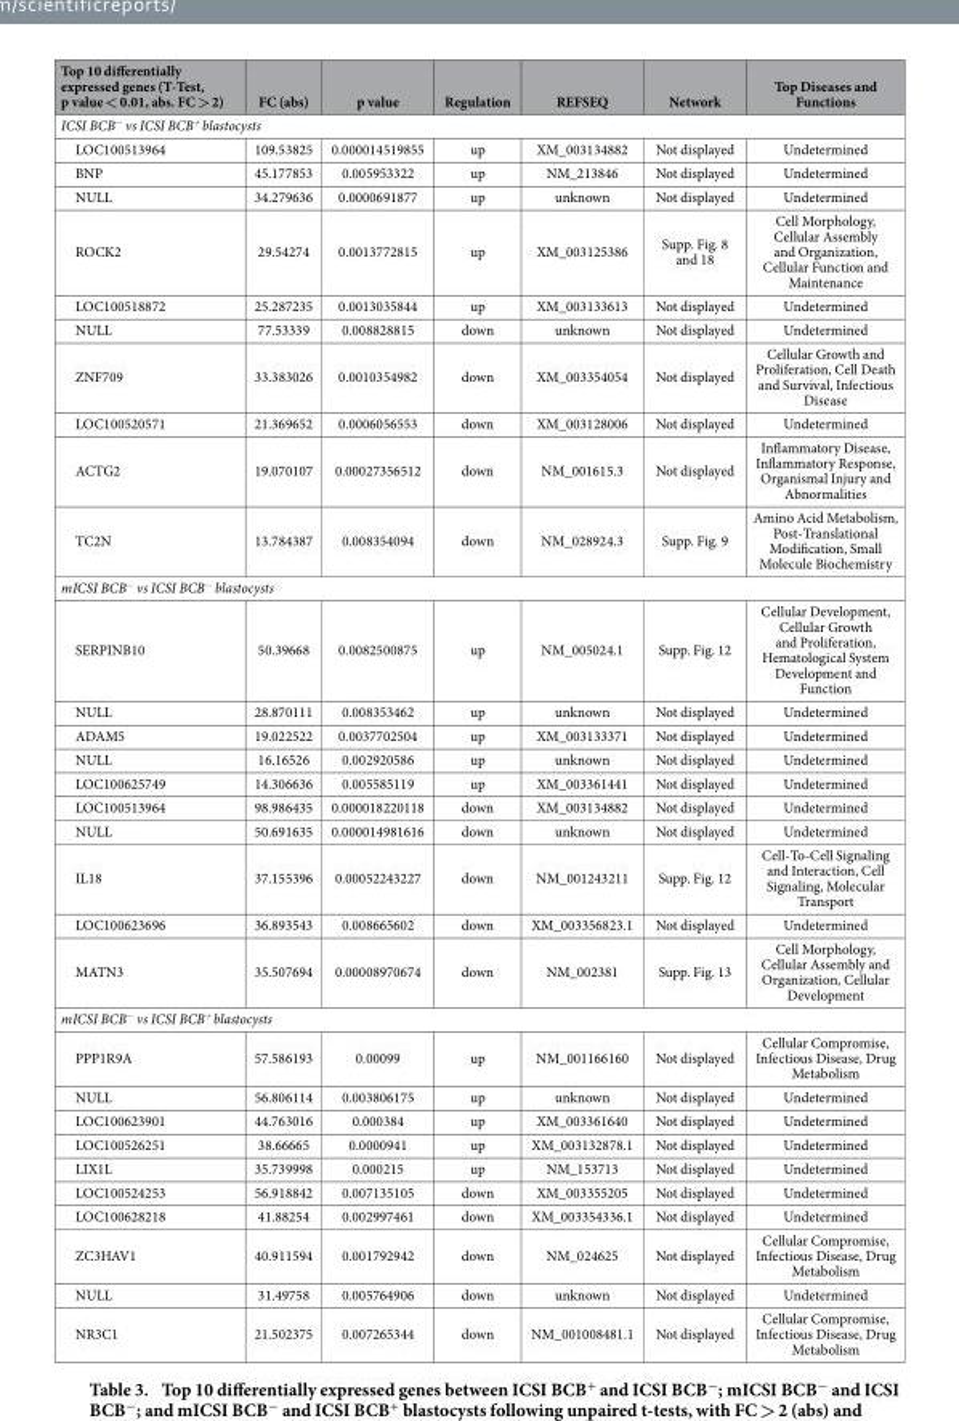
<table><thead><tr><td>Top 10 differentially expressed genes (T-Test, p value &lt; 0.01, abs. FC &gt; 2)</td><td>FC (abs)</td><td>p value</td><td>Regulation</td><td>REFSEQ</td><td>Network</td><td>Top Diseases and Functions</td></tr></thead><tbody><tr><td colspan="7">ICSI BCB<sup>−</sup> vs ICSI BCB<sup>+</sup> blastocysts</td></tr><tr><td>LOC100513964</td><td>109.53825</td><td>0.000014519855</td><td>up</td><td>XM_003134882</td><td>Not displayed</td><td>Undetermined</td></tr><tr><td>BNP</td><td>45.177853</td><td>0.005953322</td><td>up</td><td>NM_213846</td><td>Not displayed</td><td>Undetermined</td></tr><tr><td>NULL</td><td>34.279636</td><td>0.0000691877</td><td>up</td><td>unknown</td><td>Not displayed</td><td>Undetermined</td></tr><tr><td>ROCK2</td><td>29.54274</td><td>0.0013772815</td><td>up</td><td>XM_003125386</td><td>Supp. Fig. 8 and 18</td><td>Cell Morphology, Cellular Assembly and Organization, Cellular Function and Maintenance</td></tr><tr><td>LOC100518872</td><td>25.287235</td><td>0.0013035844</td><td>up</td><td>XM_003133613</td><td>Not displayed</td><td>Undetermined</td></tr><tr><td>NULL</td><td>77.53339</td><td>0.008828815</td><td>down</td><td>unknown</td><td>Not displayed</td><td>Undetermined</td></tr><tr><td>ZNF709</td><td>33.383026</td><td>0.0010354982</td><td>down</td><td>XM_003354054</td><td>Not displayed</td><td>Cellular Growth and Proliferation, Cell Death and Survival, Infectious Disease</td></tr><tr><td>LOC100520571</td><td>21.369652</td><td>0.0006056553</td><td>down</td><td>XM_003128006</td><td>Not displayed</td><td>Undetermined</td></tr><tr><td>ACTG2</td><td>19.070107</td><td>0.00027356512</td><td>down</td><td>NM_001615.3</td><td>Not displayed</td><td>Inflammatory Disease, Inflammatory Response, Organismal Injury and Abnormalities</td></tr><tr><td>TC2N</td><td>13.784387</td><td>0.008354094</td><td>down</td><td>NM_028924.3</td><td>Supp. Fig. 9</td><td>Amino Acid Metabolism, Post-Translational Modification, Small Molecule Biochemistry</td></tr><tr><td colspan="7">mICSI BCB<sup>−</sup> vs ICSI BCB<sup>−</sup> blastocysts</td></tr><tr><td>SERPINB10</td><td>50.39668</td><td>0.0082500875</td><td>up</td><td>NM_005024.1</td><td>Supp. Fig. 12</td><td>Cellular Development, Cellular Growth and Proliferation, Hematological System Development and Function</td></tr><tr><td>NULL</td><td>28.870111</td><td>0.008353462</td><td>up</td><td>unknown</td><td>Not displayed</td><td>Undetermined</td></tr><tr><td>ADAM5</td><td>19.022522</td><td>0.0037702504</td><td>up</td><td>XM_003133371</td><td>Not displayed</td><td>Undetermined</td></tr><tr><td>NULL</td><td>16.16526</td><td>0.002920586</td><td>up</td><td>unknown</td><td>Not displayed</td><td>Undetermined</td></tr><tr><td>LOC100625749</td><td>14.306636</td><td>0.005585119</td><td>up</td><td>XM_003361441</td><td>Not displayed</td><td>Undetermined</td></tr><tr><td>LOC100513964</td><td>98.986435</td><td>0.000018220118</td><td>down</td><td>XM_003134882</td><td>Not displayed</td><td>Undetermined</td></tr><tr><td>NULL</td><td>50.691635</td><td>0.000014981616</td><td>down</td><td>unknown</td><td>Not displayed</td><td>Undetermined</td></tr><tr><td>IL18</td><td>37.155396</td><td>0.00052243227</td><td>down</td><td>NM_001243211</td><td>Supp. Fig. 12</td><td>Cell-To-Cell Signaling and Interaction, Cell Signaling, Molecular Transport</td></tr><tr><td>LOC100623696</td><td>36.893543</td><td>0.008665602</td><td>down</td><td>XM_003356823.1</td><td>Not displayed</td><td>Undetermined</td></tr><tr><td>MATN3</td><td>35.507694</td><td>0.00008970674</td><td>down</td><td>NM_002381</td><td>Supp. Fig. 13</td><td>Cell Morphology, Cellular Assembly and Organization, Cellular Development</td></tr><tr><td colspan="7">mICSI BCB<sup>−</sup> vs ICSI BCB<sup>+</sup> blastocysts</td></tr><tr><td>PPP1R9A</td><td>57.586193</td><td>0.00099</td><td>up</td><td>NM_001166160</td><td>Not displayed</td><td>Cellular Compromise, Infectious Disease, Drug Metabolism</td></tr><tr><td>NULL</td><td>56.806114</td><td>0.003806175</td><td>up</td><td>unknown</td><td>Not displayed</td><td>Undetermined</td></tr><tr><td>LOC100623901</td><td>44.763016</td><td>0.000384</td><td>up</td><td>XM_003361640</td><td>Not displayed</td><td>Undetermined</td></tr><tr><td>LOC100526251</td><td>38.66665</td><td>0.0000941</td><td>up</td><td>XM_003132878.1</td><td>Not displayed</td><td>Undetermined</td></tr><tr><td>LIX1L</td><td>35.739998</td><td>0.000215</td><td>up</td><td>NM_153713</td><td>Not displayed</td><td>Undetermined</td></tr><tr><td>LOC100524253</td><td>56.918842</td><td>0.007135105</td><td>down</td><td>XM_003355205</td><td>Not displayed</td><td>Undetermined</td></tr><tr><td>LOC100628218</td><td>41.88254</td><td>0.002997461</td><td>down</td><td>XM_003354336.1</td><td>Not displayed</td><td>Undetermined</td></tr><tr><td>ZC3HAV1</td><td>40.911594</td><td>0.001792942</td><td>down</td><td>NM_024625</td><td>Not displayed</td><td>Cellular Compromise, Infectious Disease, Drug Metabolism</td></tr><tr><td>NULL</td><td>31.49758</td><td>0.005764906</td><td>down</td><td>unknown</td><td>Not displayed</td><td>Undetermined</td></tr><tr><td>NR3C1</td><td>21.502375</td><td>0.007265344</td><td>down</td><td>NM_001008481.1</td><td>Not displayed</td><td>Cellular Compromise, Infectious Disease, Drug Metabolism</td></tr></tbody></table>